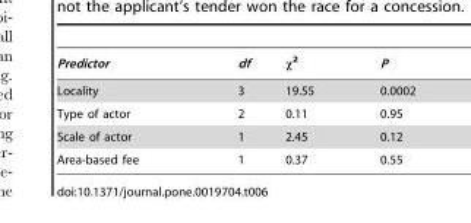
<table><thead><tr><td>Predictor</td><td>df</td><td>χ<sup>2</sup></td><td>P</td></tr></thead><tbody><tr><td>Locality</td><td>3</td><td>19.55</td><td>0.0002</td></tr><tr><td>Type of actor</td><td>2</td><td>0.11</td><td>0.95</td></tr><tr><td>Scale of actor</td><td>1</td><td>2.45</td><td>0.12</td></tr><tr><td>Area-based fee</td><td>1</td><td>0.37</td><td>0.55</td></tr></tbody></table>